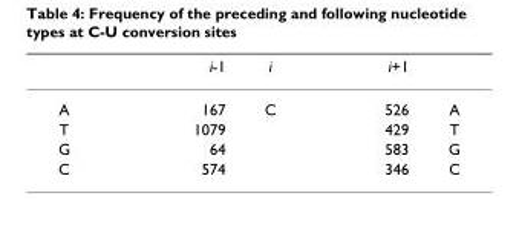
<table><thead><tr><td></td><td>i-1</td><td>i</td><td>i+1</td><td></td></tr></thead><tbody><tr><td>A</td><td>167</td><td>C</td><td>526</td><td>A</td></tr><tr><td>T</td><td>1079</td><td></td><td>429</td><td>T</td></tr><tr><td>G</td><td>64</td><td></td><td>583</td><td>G</td></tr><tr><td>C</td><td>574</td><td></td><td>346</td><td>C</td></tr></tbody></table>